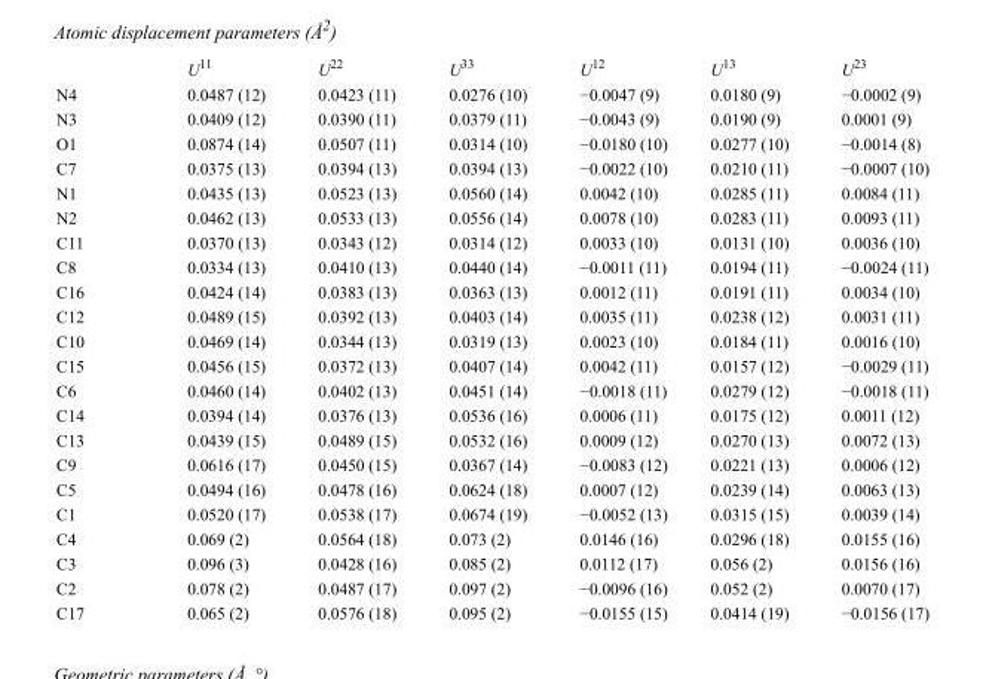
<table><thead><tr><td></td><td>U<sup>11</sup></td><td>U<sup>22</sup></td><td>U<sup>33</sup></td><td>U<sup>12</sup></td><td>U<sup>13</sup></td><td>U<sup>23</sup></td></tr></thead><tbody><tr><td>N4</td><td>0.0487 (12)</td><td>0.0423 (11)</td><td>0.0276 (10)</td><td>−0.0047 (9)</td><td>0.0180 (9)</td><td>−0.0002 (9)</td></tr><tr><td>N3</td><td>0.0409 (12)</td><td>0.0390 (11)</td><td>0.0379 (11)</td><td>−0.0043 (9)</td><td>0.0190 (9)</td><td>0.0001 (9)</td></tr><tr><td>O1</td><td>0.0874 (14)</td><td>0.0507 (11)</td><td>0.0314 (10)</td><td>−0.0180 (10)</td><td>0.0277 (10)</td><td>−0.0014 (8)</td></tr><tr><td>C7</td><td>0.0375 (13)</td><td>0.0394 (13)</td><td>0.0394 (13)</td><td>−0.0022 (10)</td><td>0.0210 (11)</td><td>−0.0007 (10)</td></tr><tr><td>N1</td><td>0.0435 (13)</td><td>0.0523 (13)</td><td>0.0560 (14)</td><td>0.0042 (10)</td><td>0.0285 (11)</td><td>0.0084 (11)</td></tr><tr><td>N2</td><td>0.0462 (13)</td><td>0.0533 (13)</td><td>0.0556 (14)</td><td>0.0078 (10)</td><td>0.0283 (11)</td><td>0.0093 (11)</td></tr><tr><td>C11</td><td>0.0370 (13)</td><td>0.0343 (12)</td><td>0.0314 (12)</td><td>0.0033 (10)</td><td>0.0131 (10)</td><td>0.0036 (10)</td></tr><tr><td>C8</td><td>0.0334 (13)</td><td>0.0410 (13)</td><td>0.0440 (14)</td><td>−0.0011 (11)</td><td>0.0194 (11)</td><td>−0.0024 (11)</td></tr><tr><td>C16</td><td>0.0424 (14)</td><td>0.0383 (13)</td><td>0.0363 (13)</td><td>0.0012 (11)</td><td>0.0191 (11)</td><td>0.0034 (10)</td></tr><tr><td>C12</td><td>0.0489 (15)</td><td>0.0392 (13)</td><td>0.0403 (14)</td><td>0.0035 (11)</td><td>0.0238 (12)</td><td>0.0031 (11)</td></tr><tr><td>C10</td><td>0.0469 (14)</td><td>0.0344 (13)</td><td>0.0319 (13)</td><td>0.0023 (10)</td><td>0.0184 (11)</td><td>0.0016 (10)</td></tr><tr><td>C15</td><td>0.0456 (15)</td><td>0.0372 (13)</td><td>0.0407 (14)</td><td>0.0042 (11)</td><td>0.0157 (12)</td><td>−0.0029 (11)</td></tr><tr><td>C6</td><td>0.0460 (14)</td><td>0.0402 (13)</td><td>0.0451 (14)</td><td>−0.0018 (11)</td><td>0.0279 (12)</td><td>−0.0018 (11)</td></tr><tr><td>C14</td><td>0.0394 (14)</td><td>0.0376 (13)</td><td>0.0536 (16)</td><td>0.0006 (11)</td><td>0.0175 (12)</td><td>0.0011 (12)</td></tr><tr><td>C13</td><td>0.0439 (15)</td><td>0.0489 (15)</td><td>0.0532 (16)</td><td>0.0009 (12)</td><td>0.0270 (13)</td><td>0.0072 (13)</td></tr><tr><td>C9</td><td>0.0616 (17)</td><td>0.0450 (15)</td><td>0.0367 (14)</td><td>−0.0083 (12)</td><td>0.0221 (13)</td><td>0.0006 (12)</td></tr><tr><td>C5</td><td>0.0494 (16)</td><td>0.0478 (16)</td><td>0.0624 (18)</td><td>0.0007 (12)</td><td>0.0239 (14)</td><td>0.0063 (13)</td></tr><tr><td>C1</td><td>0.0520 (17)</td><td>0.0538 (17)</td><td>0.0674 (19)</td><td>−0.0052 (13)</td><td>0.0315 (15)</td><td>0.0039 (14)</td></tr><tr><td>C4</td><td>0.069 (2)</td><td>0.0564 (18)</td><td>0.073 (2)</td><td>0.0146 (16)</td><td>0.0296 (18)</td><td>0.0155 (16)</td></tr><tr><td>C3</td><td>0.096 (3)</td><td>0.0428 (16)</td><td>0.085 (2)</td><td>0.0112 (17)</td><td>0.056 (2)</td><td>0.0156 (16)</td></tr><tr><td>C2</td><td>0.078 (2)</td><td>0.0487 (17)</td><td>0.097 (2)</td><td>−0.0096 (16)</td><td>0.052 (2)</td><td>0.0070 (17)</td></tr><tr><td>C17</td><td>0.065 (2)</td><td>0.0576 (18)</td><td>0.095 (2)</td><td>−0.0155 (15)</td><td>0.0414 (19)</td><td>−0.0156 (17)</td></tr></tbody></table>